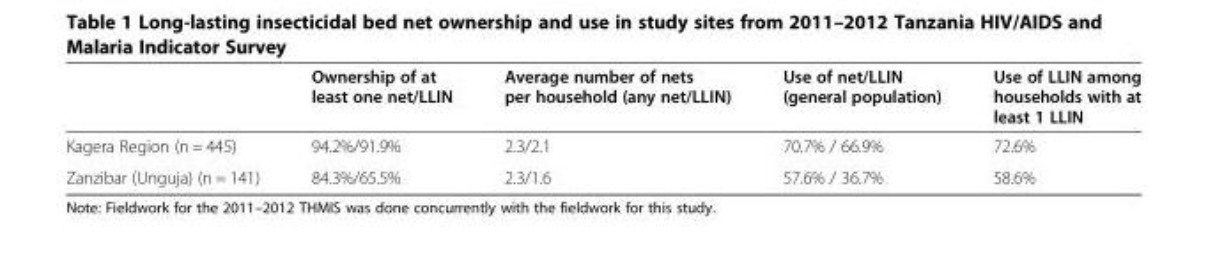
<table><thead><tr><td></td><td>Ownership of at least one net/LLIN</td><td>Average number of nets per household (any net/LLIN)</td><td>Use of net/LLIN (general population)</td><td>Use of LLIN among households with at least 1 LLIN</td></tr></thead><tbody><tr><td>Kagera Region (n = 445)</td><td>94.2%/91.9%</td><td>2.3/2.1</td><td>70.7% / 66.9%</td><td>72.6%</td></tr><tr><td>Zanzibar (Unguja) (n = 141)</td><td>84.3%/65.5%</td><td>2.3/1.6</td><td>57.6% / 36.7%</td><td>58.6%</td></tr></tbody></table>